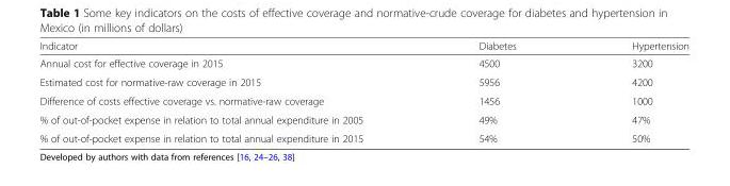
<table><thead><tr><td>Indicator</td><td>Diabetes</td><td>Hypertension</td></tr></thead><tbody><tr><td>Annual cost for effective coverage in 2015</td><td>4500</td><td>3200</td></tr><tr><td>Estimated cost for normative-raw coverage in 2015</td><td>5956</td><td>4200</td></tr><tr><td>Difference of costs effective coverage vs. normative-raw coverage</td><td>1456</td><td>1000</td></tr><tr><td>% of out-of-pocket expense in relation to total annual expenditure in 2005</td><td>49%</td><td>47%</td></tr><tr><td>% of out-of-pocket expense in relation to total annual expenditure in 2015</td><td>54%</td><td>50%</td></tr></tbody></table>